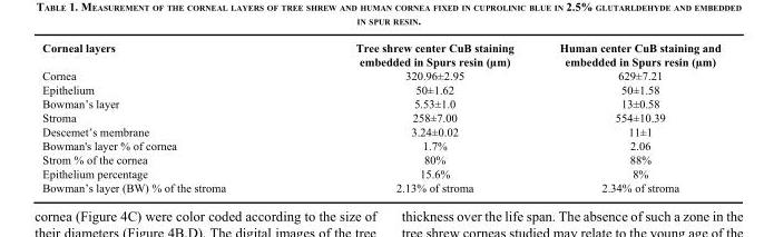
<table><thead><tr><td>Corneal layers</td><td>Tree shrew center CuB staining embedded in Spurs resin (µm)</td><td>Human center CuB staining and embedded in Spurs resin (µm)</td></tr></thead><tbody><tr><td>Cornea</td><td>320.96±2.95</td><td>629±7.21</td></tr><tr><td>Epithelium</td><td>50±1.62</td><td>50±1.58</td></tr><tr><td>Bowman’s layer</td><td>5.53±1.0</td><td>13±0.58</td></tr><tr><td>Stroma</td><td>258±7.00</td><td>554±10.39</td></tr><tr><td>Descemet’s membrane</td><td>3.24±0.02</td><td>11±1</td></tr><tr><td>Bowman&#x27;s layer % of cornea</td><td>1.7%</td><td>2.06</td></tr><tr><td>Strom % of the cornea</td><td>80%</td><td>88%</td></tr><tr><td>Epithelium percentage</td><td>15.6%</td><td>8%</td></tr><tr><td>Bowman’s layer (BW) % of the stroma</td><td>2.13% of stroma</td><td>2.34% of stroma</td></tr></tbody></table>